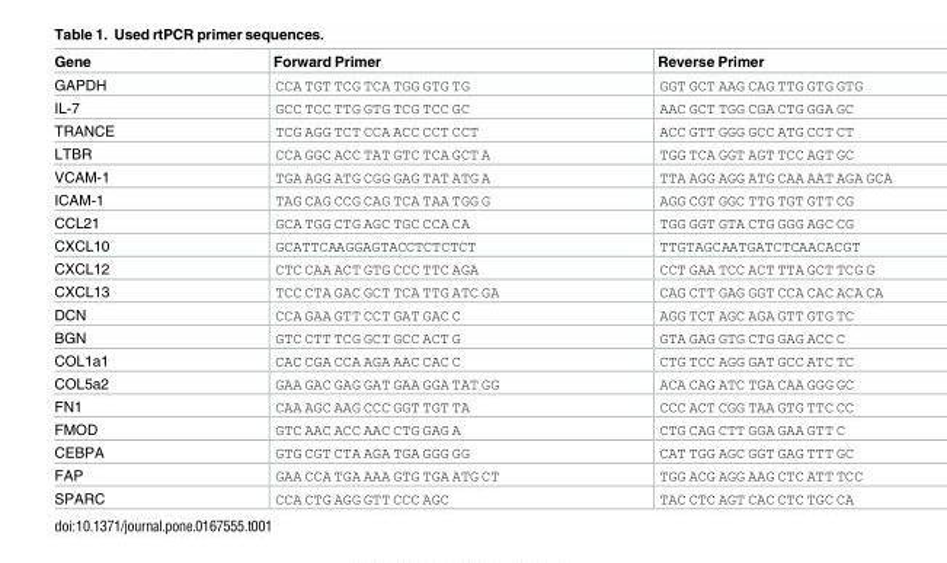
<table><thead><tr><td>Gene</td><td>Forward Primer</td><td>Reverse Primer</td></tr></thead><tbody><tr><td>GAPDH</td><td>CCA TGT TCG TCA TGG GTG TG</td><td>GGT GCT AAG CAG TTG GTG GTG</td></tr><tr><td>IL-7</td><td>GCC TCC TTG GTG TCG TCC GC</td><td>AAC GCT TGG CGA CTG GGA GC</td></tr><tr><td>TRANCE</td><td>TCG AGG TCT CCA ACC CCT CCT</td><td>ACC GTT GGG GCC ATG CCT CT</td></tr><tr><td>LTBR</td><td>CCA GGC ACC TAT GTC TCA GCT A</td><td>TGG TCA GGT AGT TCC AGT GC</td></tr><tr><td>VCAM-1</td><td>TGA AGG ATG CGG GAG TAT ATG A</td><td>TTA AGG AGG ATG CAA AAT AGA GCA</td></tr><tr><td>ICAM-1</td><td>TAG CAG CCG CAG TCA TAA TGG G</td><td>AGG CGT GGC TTG TGT GTT CG</td></tr><tr><td>CCL21</td><td>GCA TGG CTG AGC TGC CCA CA</td><td>TGG GGT GTA CTG GGG AGC CG</td></tr><tr><td>CXCL10</td><td>GCATTCAAGGAGTACCTCTCTCT</td><td>TTGTAGCAATGATCTCAACACGT</td></tr><tr><td>CXCL12</td><td>CTC CAA ACT GTG CCC TTC AGA</td><td>CCT GAA TCC ACT TTA GCT TCG G</td></tr><tr><td>CXCL13</td><td>TCC CTA GAC GCT TCA TTG ATC GA</td><td>CAG CTT GAG GGT CCA CAC ACA CA</td></tr><tr><td>DCN</td><td>CCA GAA GTT CCT GAT GAC C</td><td>AGG TCT AGC AGA GTT GTG TC</td></tr><tr><td>BGN</td><td>GTC CTT TCG GCT GCC ACT G</td><td>GTA GAG GTG CTG GAG ACC C</td></tr><tr><td>COL1a1</td><td>CAC CGA CCA AGA AAC CAC C</td><td>CTG TCC AGG GAT GCC ATC TC</td></tr><tr><td>COL5a2</td><td>GAA GAC GAG GAT GAA GGA TAT GG</td><td>ACA CAG ATC TGA CAA GGG GC</td></tr><tr><td>FN1</td><td>CAA AGC AAG CCC GGT TGT TA</td><td>CCC ACT CGG TAA GTG TTC CC</td></tr><tr><td>FMOD</td><td>GTC AAC ACC AAC CTG GAG A</td><td>CTG CAG CTT GGA GAA GTT C</td></tr><tr><td>CEBPA</td><td>GTG CGT CTA AGA TGA GGG GG</td><td>CAT TGG AGC GGT GAG TTT GC</td></tr><tr><td>FAP</td><td>GAA CCA TGA AAA GTG TGA ATG CT</td><td>TGG ACG AGG AAG CTC ATT TCC</td></tr><tr><td>SPARC</td><td>CCA CTG AGG GTT CCC AGC</td><td>TAC CTC AGT CAC CTC TGC CA</td></tr></tbody></table>